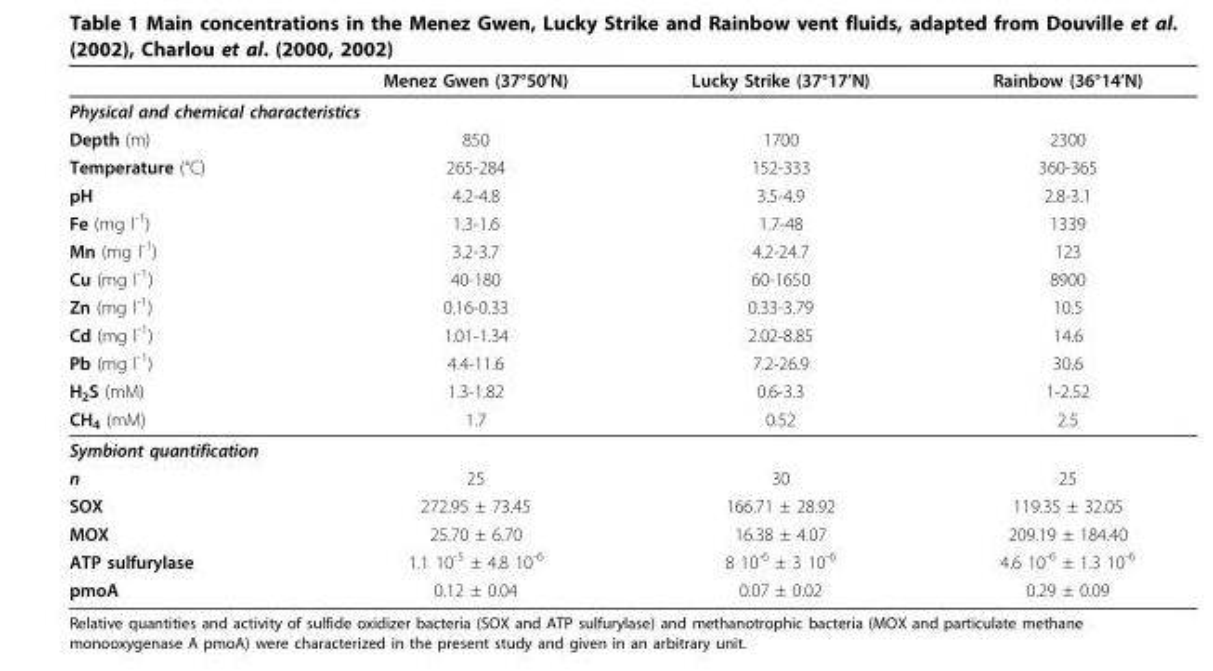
<table><thead><tr><td></td><td>Menez Gwen (37°50’N)</td><td>Lucky Strike (37°17’N)</td><td>Rainbow (36°14’N)</td></tr></thead><tbody><tr><td colspan="4">Physical and chemical characteristics</td></tr><tr><td>Depth (m)</td><td>850</td><td>1700</td><td>2300</td></tr><tr><td>Temperature (°C)</td><td>265-284</td><td>152-333</td><td>360-365</td></tr><tr><td>pH</td><td>4.2-4.8</td><td>3.5-4.9</td><td>2.8-3.1</td></tr><tr><td>Fe (mg l<sup>-1</sup>)</td><td>1.3-1.6</td><td>1.7-48</td><td>1339</td></tr><tr><td>Mn (mg l<sup>-1</sup>)</td><td>3.2-3.7</td><td>4.2-24.7</td><td>123</td></tr><tr><td>Cu (mg l<sup>-1</sup>)</td><td>40-180</td><td>60-1650</td><td>8900</td></tr><tr><td>Zn (mg l<sup>-1</sup>)</td><td>0.16-0.33</td><td>0.33-3.79</td><td>10.5</td></tr><tr><td>Cd (mg l<sup>-1</sup>)</td><td>1.01-1.34</td><td>2.02-8.85</td><td>14.6</td></tr><tr><td>Pb (mg l<sup>-1</sup>)</td><td>4.4-11.6</td><td>7.2-26.9</td><td>30.6</td></tr><tr><td>H<sub>2</sub>S (mM)</td><td>1.3-1.82</td><td>0.6-3.3</td><td>1-2.52</td></tr><tr><td>CH<sub>4</sub> (mM)</td><td>1.7</td><td>0.52</td><td>2.5</td></tr><tr><td colspan="4">Symbiont quantification</td></tr><tr><td>n</td><td>25</td><td>30</td><td>25</td></tr><tr><td>SOX</td><td>272.95 ± 73.45</td><td>166.71 ± 28.92</td><td>119.35 ± 32.05</td></tr><tr><td>MOX</td><td>25.70 ± 6.70</td><td>16.38 ± 4.07</td><td>209.19 ± 184.40</td></tr><tr><td>ATP sulfurylase</td><td>1.1 10<sup>-5</sup> ± 4.8 10<sup>-6</sup></td><td>8 10<sup>-6</sup> ± 3 10<sup>-6</sup></td><td>4.6 10<sup>-6</sup> ± 1.3 10<sup>-6</sup></td></tr><tr><td>pmoA</td><td>0.12 ± 0.04</td><td>0.07 ± 0.02</td><td>0.29 ± 0.09</td></tr></tbody></table>